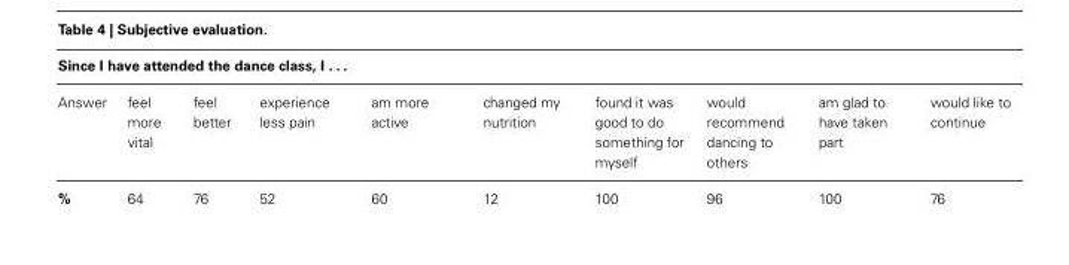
<table><thead><tr><td colspan="10">Since I have attended the dance class, I . . .</td></tr><tr><td>Answer</td><td>feel more vital</td><td>feel better</td><td>experience less pain</td><td>am more active</td><td>changed my nutrition</td><td>found it was good to do something for myself</td><td>would recommend dancing to others</td><td>am glad to have taken part</td><td>would like to continue</td></tr></thead><tbody><tr><td>%</td><td>64</td><td>76</td><td>52</td><td>60</td><td>12</td><td>100</td><td>96</td><td>100</td><td>76</td></tr></tbody></table>